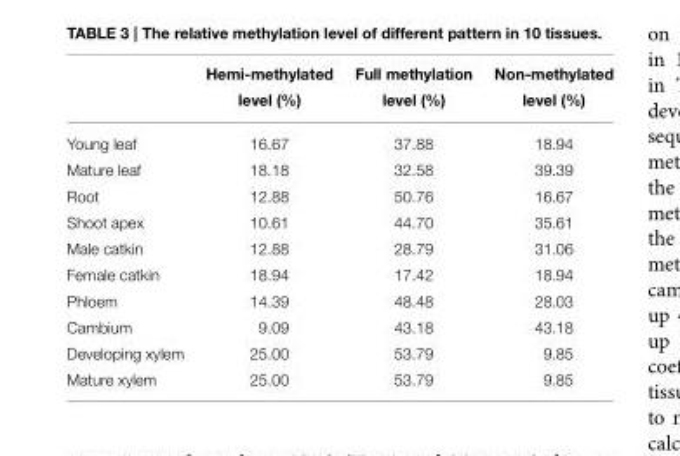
<table><thead><tr><td></td><td>Hemi-methylated level (%)</td><td>Full methylation level (%)</td><td>Non-methylated level (%)</td></tr></thead><tbody><tr><td>Young leaf</td><td>16.67</td><td>37.88</td><td>18.94</td></tr><tr><td>Mature leaf</td><td>18.18</td><td>32.58</td><td>39.39</td></tr><tr><td>Root</td><td>12.88</td><td>50.76</td><td>16.67</td></tr><tr><td>Shoot apex</td><td>10.61</td><td>44.70</td><td>35.61</td></tr><tr><td>Male catkin</td><td>12.88</td><td>28.79</td><td>31.06</td></tr><tr><td>Female catkin</td><td>18.94</td><td>17.42</td><td>18.94</td></tr><tr><td>Phloem</td><td>14.39</td><td>48.48</td><td>28.03</td></tr><tr><td>Cambium</td><td>9.09</td><td>43.18</td><td>43.18</td></tr><tr><td>Developing xylem</td><td>25.00</td><td>53.79</td><td>9.85</td></tr><tr><td>Mature xylem</td><td>25.00</td><td>53.79</td><td>9.85</td></tr></tbody></table>